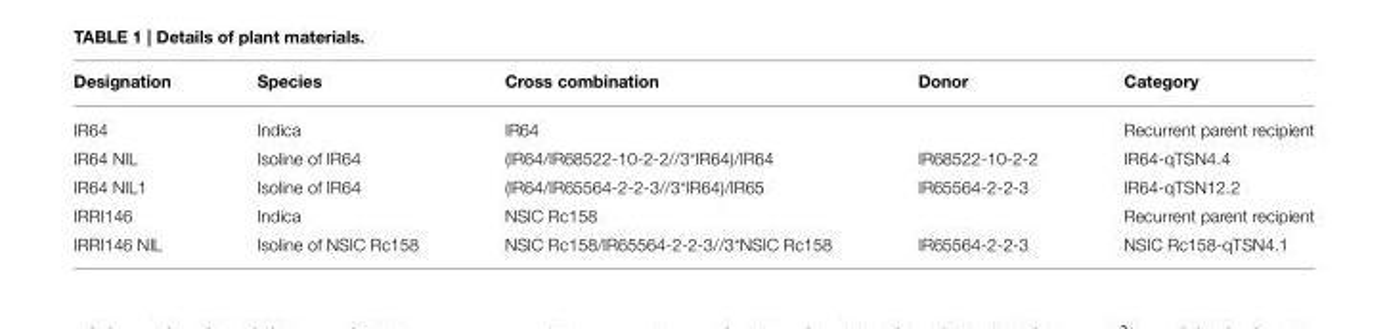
<table><thead><tr><td>Designation</td><td>Species</td><td>Cross combination</td><td>Donor</td><td>Category</td></tr></thead><tbody><tr><td>IR64</td><td>Indica</td><td>IR64</td><td></td><td>Recurrent parent recipient</td></tr><tr><td>IR64 NIL</td><td>Isoline of IR64</td><td>(IR64/IR68522-10-2-2//3*IR64)/IR64</td><td>IR68522-10-2-2</td><td>IR64-qTSN4.4</td></tr><tr><td>IR64 NIL1</td><td>Isoline of IR64</td><td>(IR64/IR65564-2-2-3//3*IR64)/IR65</td><td>IR65564-2-2-3</td><td>IR64-qTSN12.2</td></tr><tr><td>IRRI146</td><td>Indica</td><td>NSIC Rc158</td><td></td><td>Recurrent parent recipient</td></tr><tr><td>IRRI146 NIL</td><td>Isoline of NSIC Rc158</td><td>NSIC Rc158/IR65564-2-2-3//3*NSIC Rc158</td><td>IR65564-2-2-3</td><td>NSIC Rc158-qTSN4.1</td></tr></tbody></table>